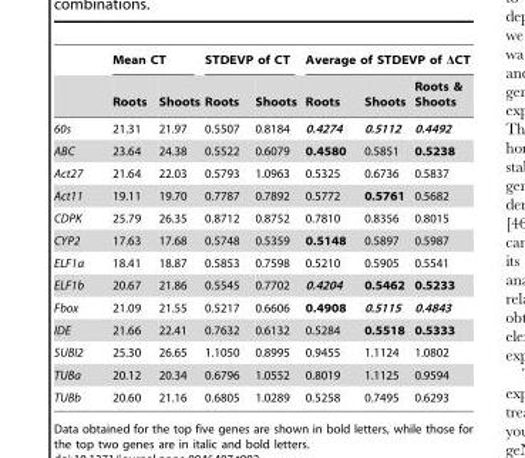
<table><thead><tr><td rowspan="2"></td><td colspan="2">Mean CT</td><td colspan="2">STDEVP of CT</td><td colspan="3">Average of STDEVP of ΔCT</td></tr><tr><td>Roots</td><td>Shoots</td><td>Roots</td><td>Shoots</td><td>Roots</td><td>Shoots</td><td>Roots &amp; Shoots</td></tr></thead><tbody><tr><td>60s</td><td>21.31</td><td>21.97</td><td>0.5507</td><td>0.8184</td><td>0.4274</td><td>0.5112</td><td>0.4492</td></tr><tr><td>ABC</td><td>23.64</td><td>24.38</td><td>0.5522</td><td>0.6079</td><td>0.4580</td><td>0.5851</td><td>0.5238</td></tr><tr><td>Act27</td><td>21.64</td><td>22.03</td><td>0.5793</td><td>1.0963</td><td>0.5325</td><td>0.6736</td><td>0.5837</td></tr><tr><td>Act11</td><td>19.11</td><td>19.70</td><td>0.7787</td><td>0.7892</td><td>0.5772</td><td>0.5761</td><td>0.5682</td></tr><tr><td>CDPK</td><td>25.79</td><td>26.35</td><td>0.8712</td><td>0.8752</td><td>0.7810</td><td>0.8356</td><td>0.8015</td></tr><tr><td>CYP2</td><td>17.63</td><td>17.68</td><td>0.5748</td><td>0.5359</td><td>0.5148</td><td>0.5897</td><td>0.5987</td></tr><tr><td>ELF1a</td><td>18.41</td><td>18.87</td><td>0.5853</td><td>0.7598</td><td>0.5210</td><td>0.5905</td><td>0.5541</td></tr><tr><td>ELF1b</td><td>20.67</td><td>21.86</td><td>0.5545</td><td>0.7702</td><td>0.4204</td><td>0.5462</td><td>0.5233</td></tr><tr><td>Fbox</td><td>21.09</td><td>21.55</td><td>0.5217</td><td>0.6606</td><td>0.4908</td><td>0.5115</td><td>0.4843</td></tr><tr><td>IDE</td><td>21.66</td><td>22.41</td><td>0.7632</td><td>0.6132</td><td>0.5284</td><td>0.5518</td><td>0.5333</td></tr><tr><td>SUBI2</td><td>25.30</td><td>26.65</td><td>1.1050</td><td>0.8995</td><td>0.9455</td><td>1.1124</td><td>1.0802</td></tr><tr><td>TUBa</td><td>20.12</td><td>20.34</td><td>0.6796</td><td>1.0552</td><td>0.8019</td><td>1.1125</td><td>0.9594</td></tr><tr><td>TUBb</td><td>20.60</td><td>21.16</td><td>0.6805</td><td>1.0289</td><td>0.5258</td><td>0.7495</td><td>0.6293</td></tr></tbody></table>